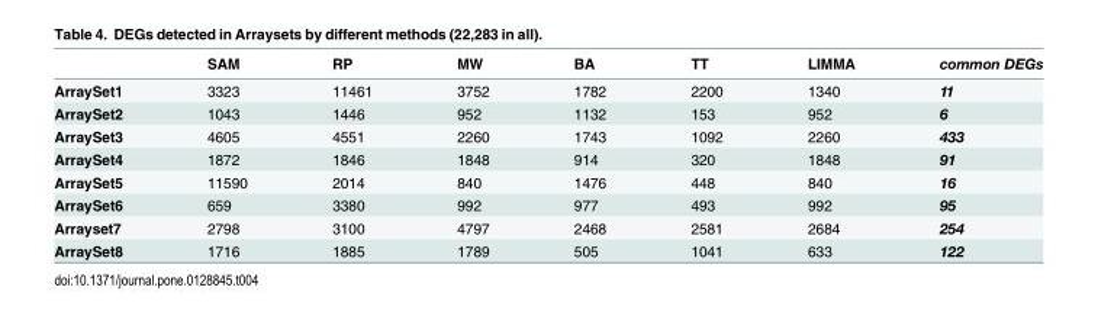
<table><thead><tr><td></td><td>SAM</td><td>RP</td><td>MW</td><td>BA</td><td>TT</td><td>LIMMA</td><td>common DEGs</td></tr></thead><tbody><tr><td>ArraySet1</td><td>3323</td><td>11461</td><td>3752</td><td>1782</td><td>2200</td><td>1340</td><td>11</td></tr><tr><td>ArraySet2</td><td>1043</td><td>1446</td><td>952</td><td>1132</td><td>153</td><td>952</td><td>6</td></tr><tr><td>ArraySet3</td><td>4605</td><td>4551</td><td>2260</td><td>1743</td><td>1092</td><td>2260</td><td>433</td></tr><tr><td>ArraySet4</td><td>1872</td><td>1846</td><td>1848</td><td>914</td><td>320</td><td>1848</td><td>91</td></tr><tr><td>ArraySet5</td><td>11590</td><td>2014</td><td>840</td><td>1476</td><td>448</td><td>840</td><td>16</td></tr><tr><td>ArraySet6</td><td>659</td><td>3380</td><td>992</td><td>977</td><td>493</td><td>992</td><td>95</td></tr><tr><td>Arrayset7</td><td>2798</td><td>3100</td><td>4797</td><td>2468</td><td>2581</td><td>2684</td><td>254</td></tr><tr><td>ArraySet8</td><td>1716</td><td>1885</td><td>1789</td><td>505</td><td>1041</td><td>633</td><td>122</td></tr></tbody></table>